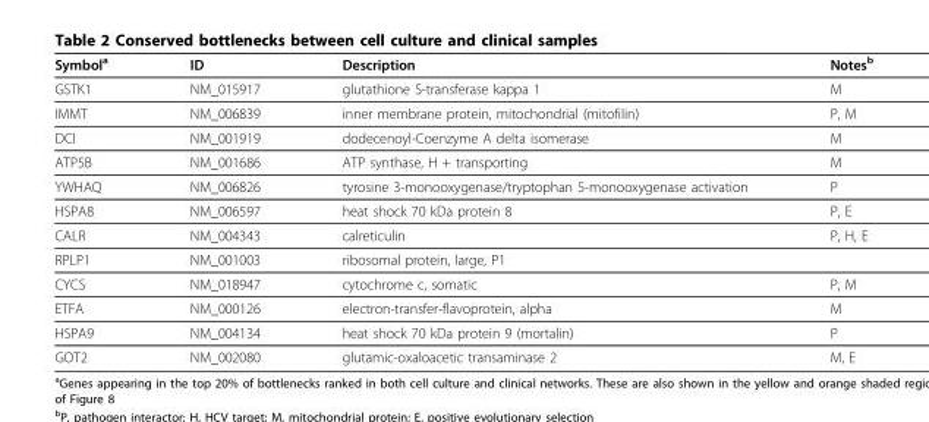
<table><thead><tr><td>Symbol<sup>a</sup></td><td>ID</td><td>Description</td><td>Notes<sup>b</sup></td></tr></thead><tbody><tr><td>GSTK1</td><td>NM_015917</td><td>glutathione S-transferase kappa 1</td><td>M</td></tr><tr><td>IMMT</td><td>NM_006839</td><td>inner membrane protein, mitochondrial (mitofilin)</td><td>P, M</td></tr><tr><td>DCI</td><td>NM_001919</td><td>dodecenoyl-Coenzyme A delta isomerase</td><td>M</td></tr><tr><td>ATP5B</td><td>NM_001686</td><td>ATP synthase, H + transporting</td><td>M</td></tr><tr><td>YWHAQ</td><td>NM_006826</td><td>tyrosine 3-monooxygenase/tryptophan 5-monooxygenase activation</td><td>P</td></tr><tr><td>HSPA8</td><td>NM_006597</td><td>heat shock 70 kDa protein 8</td><td>P, E</td></tr><tr><td>CALR</td><td>NM_004343</td><td>calreticulin</td><td>P, H, E</td></tr><tr><td>RPLP1</td><td>NM_001003</td><td>ribosomal protein, large, P1</td><td></td></tr><tr><td>CYCS</td><td>NM_018947</td><td>cytochrome c, somatic</td><td>P, M</td></tr><tr><td>ETFA</td><td>NM_000126</td><td>electron-transfer-flavoprotein, alpha</td><td>M</td></tr><tr><td>HSPA9</td><td>NM_004134</td><td>heat shock 70 kDa protein 9 (mortalin)</td><td>P</td></tr><tr><td>GOT2</td><td>NM_002080</td><td>glutamic-oxaloacetic transaminase 2</td><td>M, E</td></tr></tbody></table>